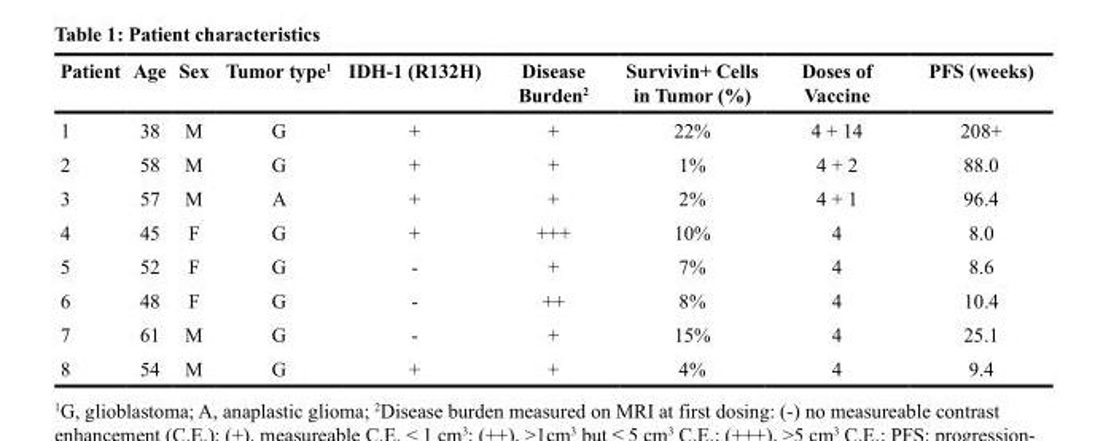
<table><thead><tr><td>Patient</td><td>Age</td><td>Sex</td><td>Tumor type<sup>1</sup></td><td>IDH-1 (R132H)</td><td>Disease Burden<sup>2</sup></td><td>Survivin+ Cells in Tumor (%)</td><td>Doses of Vaccine</td><td>PFS (weeks)</td></tr></thead><tbody><tr><td>1</td><td>38</td><td>M</td><td>G</td><td>+</td><td>+</td><td>22%</td><td>4 + 14</td><td>208+</td></tr><tr><td>2</td><td>58</td><td>M</td><td>G</td><td>+</td><td>+</td><td>1%</td><td>4 + 2</td><td>88.0</td></tr><tr><td>3</td><td>57</td><td>M</td><td>A</td><td>+</td><td>+</td><td>2%</td><td>4 + 1</td><td>96.4</td></tr><tr><td>4</td><td>45</td><td>F</td><td>G</td><td>+</td><td>+++</td><td>10%</td><td>4</td><td>8.0</td></tr><tr><td>5</td><td>52</td><td>F</td><td>G</td><td>-</td><td>+</td><td>7%</td><td>4</td><td>8.6</td></tr><tr><td>6</td><td>48</td><td>F</td><td>G</td><td>-</td><td>++</td><td>8%</td><td>4</td><td>10.4</td></tr><tr><td>7</td><td>61</td><td>M</td><td>G</td><td>-</td><td>+</td><td>15%</td><td>4</td><td>25.1</td></tr><tr><td>8</td><td>54</td><td>M</td><td>G</td><td>+</td><td>+</td><td>4%</td><td>4</td><td>9.4</td></tr></tbody></table>